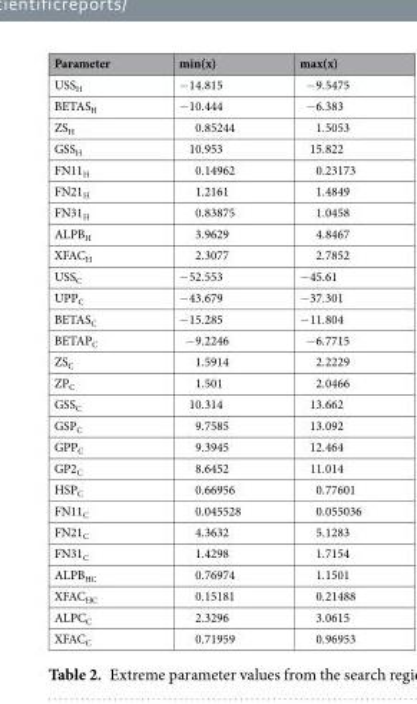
<table><thead><tr><td>Parameter</td><td>min(x)</td><td>max(x)</td></tr></thead><tbody><tr><td>USS<sub>H</sub></td><td>−14.815</td><td>−9.5475</td></tr><tr><td>BETAS<sub>H</sub></td><td>−10.444</td><td>−6.383</td></tr><tr><td>ZS<sub>H</sub></td><td>0.85244</td><td>1.5053</td></tr><tr><td>GSS<sub>H</sub></td><td>10.953</td><td>15.822</td></tr><tr><td>FN11<sub>H</sub></td><td>0.14962</td><td>0.23173</td></tr><tr><td>FN21<sub>H</sub></td><td>1.2161</td><td>1.4849</td></tr><tr><td>FN31<sub>H</sub></td><td>0.83875</td><td>1.0458</td></tr><tr><td>ALPB<sub>H</sub></td><td>3.9629</td><td>4.8467</td></tr><tr><td>XFAC<sub>H</sub></td><td>2.3077</td><td>2.7852</td></tr><tr><td>USS<sub>C</sub></td><td>−52.553</td><td>−45.61</td></tr><tr><td>UPP<sub>C</sub></td><td>−43.679</td><td>−37.301</td></tr><tr><td>BETAS<sub>C</sub></td><td>−15.285</td><td>−11.804</td></tr><tr><td>BETAP<sub>C</sub></td><td>−9.2246</td><td>−6.7715</td></tr><tr><td>ZS<sub>C</sub></td><td>1.5914</td><td>2.2229</td></tr><tr><td>ZP<sub>C</sub></td><td>1.501</td><td>2.0466</td></tr><tr><td>GSS<sub>C</sub></td><td>10.314</td><td>13.662</td></tr><tr><td>GSP<sub>C</sub></td><td>9.7585</td><td>13.092</td></tr><tr><td>GPP<sub>C</sub></td><td>9.3945</td><td>12.464</td></tr><tr><td>GP2<sub>C</sub></td><td>8.6452</td><td>11.014</td></tr><tr><td>HSP<sub>C</sub></td><td>0.66956</td><td>0.77601</td></tr><tr><td>FN11<sub>C</sub></td><td>0.045528</td><td>0.055036</td></tr><tr><td>FN21<sub>C</sub></td><td>4.3632</td><td>5.1283</td></tr><tr><td>FN31<sub>C</sub></td><td>1.4298</td><td>1.7154</td></tr><tr><td>ALPB<sub>HC</sub></td><td>0.76974</td><td>1.1501</td></tr><tr><td>XFAC<sub>HC</sub></td><td>0.15181</td><td>0.21488</td></tr><tr><td>ALPC<sub>C</sub></td><td>2.3296</td><td>3.0615</td></tr><tr><td>XFAC<sub>C</sub></td><td>0.71959</td><td>0.96953</td></tr></tbody></table>